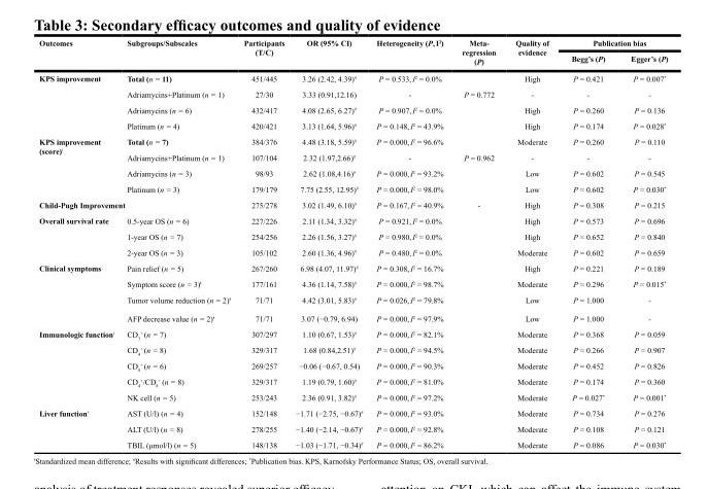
<table><thead><tr><td rowspan="2">Outcomes</td><td rowspan="2">Subgroups/Subscales</td><td rowspan="2">Participants (T/C)</td><td rowspan="2">OR (95% CI)</td><td rowspan="2">Heterogeneity (P, I<sup>2</sup>)</td><td rowspan="2">Meta- regression (P)</td><td rowspan="2">Quality of evidence</td><td colspan="2">Publication bias</td></tr><tr><td>Begg’s (P)</td><td>Egger’s (P)</td></tr></thead><tbody><tr><td rowspan="4">KPS improvement</td><td>Total (n = 11)</td><td>451/445</td><td>3.26 (2.42, 4.39)<sup>#</sup></td><td>P = 0.533, I<sup>2</sup> = 0.0%</td><td></td><td>High</td><td>P = 0.421</td><td>P = 0.007*</td></tr><tr><td>Adriamycins+Platinum (n = 1)</td><td>27/30</td><td>3.33 (0.91,12.16)</td><td>-</td><td rowspan="3">P = 0.772</td><td>-</td><td>-</td><td>-</td></tr><tr><td>Adriamycins (n = 6)</td><td>432/417</td><td>4.08 (2.65, 6.27)<sup>#</sup></td><td>P = 0.907, I<sup>2</sup> = 0.0%</td><td>High</td><td>P = 0.260</td><td>P = 0.136</td></tr><tr><td>Platinum (n = 4)</td><td>420/421</td><td>3.13 (1.64, 5.96)<sup>#</sup></td><td>P = 0.148, I<sup>2</sup> = 43.9%</td><td>High</td><td>P = 0.174</td><td>P = 0.028*</td></tr><tr><td rowspan="4">KPS improvement (score)<sup>ǂ</sup></td><td>Total (n = 7)</td><td>384/376</td><td>4.48 (3.18, 5.59)<sup>#</sup></td><td>P = 0.000, I<sup>2</sup> = 96.6%</td><td></td><td>Moderate</td><td>P = 0.260</td><td>P = 0.110</td></tr><tr><td>Adriamycins+Platinum (n = 1)</td><td>107/104</td><td>2.32 (1.97,2.66)<sup>#</sup></td><td>-</td><td rowspan="3">P = 0.962</td><td>-</td><td>-</td><td>-</td></tr><tr><td>Adriamycins (n = 3)</td><td>98/93</td><td>2.62 (1.08,4.16)<sup>#</sup></td><td>P = 0.000, I<sup>2</sup> = 93.2%</td><td>Low</td><td>P = 0.602</td><td>P = 0.545</td></tr><tr><td>Platinum (n = 3)</td><td>179/179</td><td>7.75 (2.55, 12.95)<sup>#</sup></td><td>P = 0.000, I<sup>2</sup> = 98.0%</td><td>Low</td><td>P = 0.602</td><td>P = 0.030*</td></tr><tr><td colspan="2">Child-Pugh Improvement</td><td>275/278</td><td>3.02 (1.49, 6.10)<sup>#</sup></td><td>P = 0.167, I<sup>2</sup> = 40.9%</td><td>-</td><td>High</td><td>P = 0.308</td><td>P = 0.215</td></tr><tr><td rowspan="3">Overall survival rate</td><td>0.5-year OS (n = 6)</td><td>227/226</td><td>2.11 (1.34, 3.32)<sup>#</sup></td><td>P = 0.921, I<sup>2</sup> = 0.0%</td><td></td><td>High</td><td>P = 0.573</td><td>P = 0.696</td></tr><tr><td>1-year OS (n = 7)</td><td>254/256</td><td>2.26 (1.56, 3.27)<sup>#</sup></td><td>P = 0.980, I<sup>2</sup> = 0.0%</td><td></td><td>High</td><td>P = 0.652</td><td>P = 0.840</td></tr><tr><td>2-year OS (n = 3)</td><td>105/102</td><td>2.60 (1.36, 4.96)<sup>#</sup></td><td>P = 0.480, I<sup>2</sup> = 0.0%</td><td></td><td>Moderate</td><td>P = 0.602</td><td>P = 0.659</td></tr><tr><td rowspan="4">Clinical symptoms</td><td>Pain relief (n = 5)</td><td>267/260</td><td>6.98 (4.07, 11.97)<sup>#</sup></td><td>P = 0.308, I<sup>2</sup> = 16.7%</td><td></td><td>High</td><td>P = 0.221</td><td>P = 0.189</td></tr><tr><td>Symptom score (n = 3)<sup>ǂ</sup></td><td>177/161</td><td>4.36 (1.14, 7.58)<sup>#</sup></td><td>P = 0.000, I<sup>2</sup> = 98.7%</td><td></td><td>Moderate</td><td>P = 0.296</td><td>P = 0.015*</td></tr><tr><td>Tumor volume reduction (n = 2)<sup>ǂ</sup></td><td>71/71</td><td>4.42 (3.01, 5.83)<sup>#</sup></td><td>P = 0.026, I<sup>2</sup> = 79.8%</td><td></td><td>Low</td><td>P = 1.000</td><td>-</td></tr><tr><td>AFP decrease value (n = 2)<sup>ǂ</sup></td><td>71/71</td><td>3.07 (−0.79, 6.94)</td><td>P = 0.000, I<sup>2</sup> = 97.9%</td><td></td><td>Low</td><td>P = 1.000</td><td>-</td></tr><tr><td rowspan="5">Immunologic function<sup>ǂ</sup></td><td>CD<sub>3</sub> <sup>+</sup> (n = 7)</td><td>307/297</td><td>1.10 (0.67, 1.53)<sup>#</sup></td><td>P = 0.000, I<sup>2</sup> = 82.1%</td><td></td><td>Moderate</td><td>P = 0.368</td><td>P = 0.059</td></tr><tr><td>CD<sub>4</sub> <sup>+</sup> (n = 8)</td><td>329/317</td><td>1.68 (0.84,2.51)<sup>#</sup></td><td>P = 0.000, I<sup>2</sup> = 94.5%</td><td></td><td>Moderate</td><td>P = 0.266</td><td>P = 0.907</td></tr><tr><td>CD<sub>8</sub> <sup>+</sup> (n = 6)</td><td>269/257</td><td>−0.06 (−0.67, 0.54)</td><td>P = 0.000, I<sup>2</sup> = 90.3%</td><td></td><td>Moderate</td><td>P = 0.452</td><td>P = 0.826</td></tr><tr><td>CD<sub>4</sub> <sup>+</sup>/CD<sub>8</sub> <sup>+</sup> (n = 8)</td><td>329/317</td><td>1.19 (0.79, 1.60)<sup>#</sup></td><td>P = 0.000, I<sup>2</sup> = 81.0%</td><td></td><td>Moderate</td><td>P = 0.174</td><td>P = 0.360</td></tr><tr><td>NK cell (n = 5)</td><td>253/243</td><td>2.36 (0.91, 3.82)<sup>#</sup></td><td>P = 0.000, I<sup>2</sup> = 97.2%</td><td></td><td>Moderate</td><td>P = 0.027*</td><td>P = 0.001*</td></tr><tr><td rowspan="3">Liver function<sup>ǂ</sup></td><td>AST (U/l) (n = 4)</td><td>152/148</td><td>−1.71 (−2.75, −0.67)<sup>#</sup></td><td>P = 0.000, I<sup>2</sup> = 93.0%</td><td></td><td>Moderate</td><td>P = 0.734</td><td>P = 0.276</td></tr><tr><td>ALT (U/l) (n = 8)</td><td>278/255</td><td>−1.40 (−2.14, −0.67)<sup>#</sup></td><td>P = 0.000, I<sup>2</sup> = 92.8%</td><td></td><td>Moderate</td><td>P = 0.108</td><td>P = 0.121</td></tr><tr><td>TBIL (μmol/l) (n = 5)</td><td>148/138</td><td>−1.03 (−1.71, −0.34)<sup>#</sup></td><td>P = 0.000, I<sup>2</sup> = 86.2%</td><td></td><td>Moderate</td><td>P = 0.086</td><td>P = 0.030*</td></tr></tbody></table>